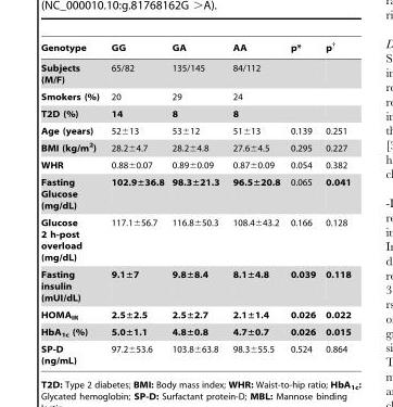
<table><thead><tr><td>Genotype</td><td>GG</td><td>GA</td><td>AA</td><td>p*</td><td>p†</td></tr></thead><tbody><tr><td>Subjects (M/F)</td><td>65/82</td><td>135/145</td><td>84/112</td><td></td><td></td></tr><tr><td>Smokers (%)</td><td>20</td><td>29</td><td>24</td><td></td><td></td></tr><tr><td>T2D (%)</td><td>14</td><td>8</td><td>8</td><td></td><td></td></tr><tr><td>Age (years)</td><td>52±13</td><td>53±12</td><td>51±13</td><td>0.139</td><td>0.251</td></tr><tr><td>BMI (kg/m<sup>2</sup>)</td><td>28.2±4.7</td><td>28.2±4.8</td><td>27.6±4.5</td><td>0.295</td><td>0.227</td></tr><tr><td>WHR</td><td>0.88±0.07</td><td>0.89±0.09</td><td>0.87±0.09</td><td>0.054</td><td>0.382</td></tr><tr><td>Fasting Glucose (mg/dL)</td><td>102.9±36.8</td><td>98.3±21.3</td><td>96.5±20.8</td><td>0.065</td><td>0.041</td></tr><tr><td>Glucose 2 h-post overload (mg/dL)</td><td>117.1±56.7</td><td>116.8±50.3</td><td>108.4±43.2</td><td>0.166</td><td>0.128</td></tr><tr><td>Fasting insulin (mUI/dL)</td><td>9.1±7</td><td>9.8±8.4</td><td>8.1±4.8</td><td>0.039</td><td>0.118</td></tr><tr><td>HOMA<sub>IR</sub></td><td>2.5±2.5</td><td>2.5±2.7</td><td>2.1±1.4</td><td>0.026</td><td>0.022</td></tr><tr><td>HbA<sub>1c</sub> (%)</td><td>5.0±1.1</td><td>4.8±0.8</td><td>4.7±0.7</td><td>0.026</td><td>0.015</td></tr><tr><td>SP-D (ng/mL)</td><td>97.2±53.6</td><td>103.8±63.8</td><td>98.3±55.5</td><td>0.524</td><td>0.864</td></tr></tbody></table>